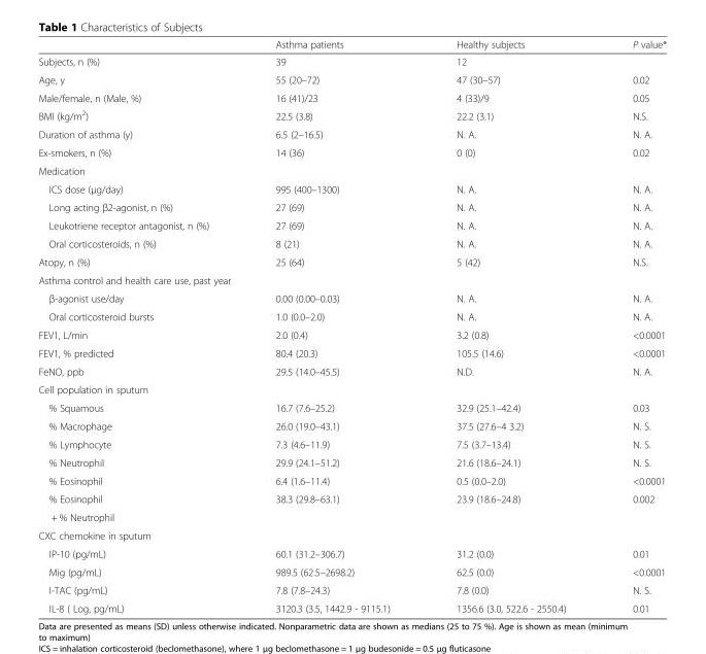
<table><thead><tr><td></td><td>Asthma patients</td><td>Healthy subjects</td><td>P value*</td></tr></thead><tbody><tr><td>Subjects, n (%)</td><td>39</td><td>12</td><td></td></tr><tr><td>Age, y</td><td>55 (20–72)</td><td>47 (30–57)</td><td>0.02</td></tr><tr><td>Male/female, n (Male, %)</td><td>16 (41)/23</td><td>4 (33)/9</td><td>0.05</td></tr><tr><td>BMI (kg/m<sup>2</sup>)</td><td>22.5 (3.8)</td><td>22.2 (3.1)</td><td>N.S.</td></tr><tr><td>Duration of asthma (y)</td><td>6.5 (2–16.5)</td><td>N. A.</td><td>N. A.</td></tr><tr><td>Ex-smokers, n (%)</td><td>14 (36)</td><td>0 (0)</td><td>0.02</td></tr><tr><td colspan="4">Medication</td></tr><tr><td>ICS dose (μg/day)</td><td>995 (400–1300)</td><td>N. A.</td><td>N. A.</td></tr><tr><td>Long acting β2-agonist, n (%)</td><td>27 (69)</td><td>N. A.</td><td>N. A.</td></tr><tr><td>Leukotriene receptor antagonist, n (%)</td><td>27 (69)</td><td>N. A.</td><td>N. A.</td></tr><tr><td>Oral corticosteroids, n (%)</td><td>8 (21)</td><td>N. A.</td><td>N. A.</td></tr><tr><td>Atopy, n (%)</td><td>25 (64)</td><td>5 (42)</td><td>N.S.</td></tr><tr><td colspan="4">Asthma control and health care use, past year</td></tr><tr><td>β-agonist use/day</td><td>0.00 (0.00–0.03)</td><td>N. A.</td><td>N. A.</td></tr><tr><td>Oral corticosteroid bursts</td><td>1.0 (0.0–2.0)</td><td>N. A.</td><td>N. A.</td></tr><tr><td>FEV1, L/min</td><td>2.0 (0.4)</td><td>3.2 (0.8)</td><td>&lt;0.0001</td></tr><tr><td>FEV1, % predicted</td><td>80.4 (20.3)</td><td>105.5 (14.6)</td><td>&lt;0.0001</td></tr><tr><td>FeNO, ppb</td><td>29.5 (14.0–45.5)</td><td>N.D.</td><td>N. A.</td></tr><tr><td colspan="4">Cell population in sputum</td></tr><tr><td>% Squamous</td><td>16.7 (7.6–25.2)</td><td>32.9 (25.1–42.4)</td><td>0.03</td></tr><tr><td>% Macrophage</td><td>26.0 (19.0–43.1)</td><td>37.5 (27.6–4 3.2)</td><td>N. S.</td></tr><tr><td>% Lymphocyte</td><td>7.3 (4.6–11.9)</td><td>7.5 (3.7–13.4)</td><td>N. S.</td></tr><tr><td>% Neutrophil</td><td>29.9 (24.1–51.2)</td><td>21.6 (18.6–24.1)</td><td>N. S.</td></tr><tr><td>% Eosinophil</td><td>6.4 (1.6–11.4)</td><td>0.5 (0.0–2.0)</td><td>&lt;0.0001</td></tr><tr><td>% Eosinophil</td><td rowspan="2">38.3 (29.8–63.1)</td><td rowspan="2">23.9 (18.6–24.8)</td><td rowspan="2">0.002</td></tr><tr><td>+ % Neutrophil</td></tr><tr><td colspan="4">CXC chemokine in sputum</td></tr><tr><td>IP-10 (pg/mL)</td><td>60.1 (31.2–306.7)</td><td>31.2 (0.0)</td><td>0.01</td></tr><tr><td>Mig (pg/mL)</td><td>989.5 (62.5–2698.2)</td><td>62.5 (0.0)</td><td>&lt;0.0001</td></tr><tr><td>I-TAC (pg/mL)</td><td>7.8 (7.8–24.3)</td><td>7.8 (0.0)</td><td>N. S.</td></tr><tr><td>IL-8 ( Log, pg/mL)</td><td>3120.3 (3.5, 1442.9 - 9115.1)</td><td>1356.6 (3.0, 522.6 - 2550.4)</td><td>0.01</td></tr></tbody></table>